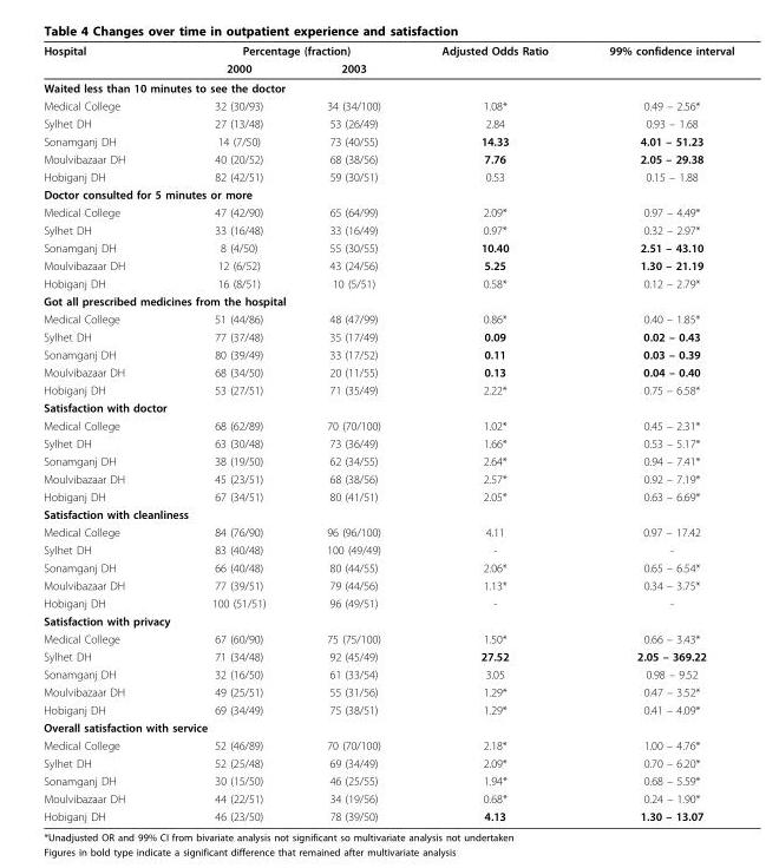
<table><thead><tr><td rowspan="2">Hospital</td><td colspan="2">Percentage (fraction)</td><td rowspan="2">Adjusted Odds Ratio</td><td rowspan="2">99% confidence interval</td></tr><tr><td>2000</td><td>2003</td></tr></thead><tbody><tr><td colspan="5">Waited less than 10 minutes to see the doctor</td></tr><tr><td>Medical College</td><td>32 (30/93)</td><td>34 (34/100)</td><td>1.08*</td><td>0.49 – 2.56*</td></tr><tr><td>Sylhet DH</td><td>27 (13/48)</td><td>53 (26/49)</td><td>2.84</td><td>0.93 – 1.68</td></tr><tr><td>Sonamganj DH</td><td>14 (7/50)</td><td>73 (40/55)</td><td>14.33</td><td>4.01 – 51.23</td></tr><tr><td>Moulvibazaar DH</td><td>40 (20/52)</td><td>68 (38/56)</td><td>7.76</td><td>2.05 – 29.38</td></tr><tr><td>Hobiganj DH</td><td>82 (42/51)</td><td>59 (30/51)</td><td>0.53</td><td>0.15 – 1.88</td></tr><tr><td colspan="5">Doctor consulted for 5 minutes or more</td></tr><tr><td>Medical College</td><td>47 (42/90)</td><td>65 (64/99)</td><td>2.09*</td><td>0.97 – 4.49*</td></tr><tr><td>Sylhet DH</td><td>33 (16/48)</td><td>33 (16/49)</td><td>0.97*</td><td>0.32 – 2.97*</td></tr><tr><td>Sonamganj DH</td><td>8 (4/50)</td><td>55 (30/55)</td><td>10.40</td><td>2.51 – 43.10</td></tr><tr><td>Moulvibazaar DH</td><td>12 (6/52)</td><td>43 (24/56)</td><td>5.25</td><td>1.30 – 21.19</td></tr><tr><td>Hobiganj DH</td><td>16 (8/51)</td><td>10 (5/51)</td><td>0.58*</td><td>0.12 – 2.79*</td></tr><tr><td colspan="5">Got all prescribed medicines from the hospital</td></tr><tr><td>Medical College</td><td>51 (44/86)</td><td>48 (47/99)</td><td>0.86*</td><td>0.40 – 1.85*</td></tr><tr><td>Sylhet DH</td><td>77 (37/48)</td><td>35 (17/49)</td><td>0.09</td><td>0.02 – 0.43</td></tr><tr><td>Sonamganj DH</td><td>80 (39/49)</td><td>33 (17/52)</td><td>0.11</td><td>0.03 – 0.39</td></tr><tr><td>Moulvibazaar DH</td><td>68 (34/50)</td><td>20 (11/55)</td><td>0.13</td><td>0.04 – 0.40</td></tr><tr><td>Hobiganj DH</td><td>53 (27/51)</td><td>71 (35/49)</td><td>2.22*</td><td>0.75 – 6.58*</td></tr><tr><td colspan="5">Satisfaction with doctor</td></tr><tr><td>Medical College</td><td>68 (62/89)</td><td>70 (70/100)</td><td>1.02*</td><td>0.45 – 2.31*</td></tr><tr><td>Sylhet DH</td><td>63 (30/48)</td><td>73 (36/49)</td><td>1.66*</td><td>0.53 – 5.17*</td></tr><tr><td>Sonamganj DH</td><td>38 (19/50)</td><td>62 (34/55)</td><td>2.64*</td><td>0.94 – 7.41*</td></tr><tr><td>Moulvibazaar DH</td><td>45 (23/51)</td><td>68 (38/56)</td><td>2.57*</td><td>0.92 – 7.19*</td></tr><tr><td>Hobiganj DH</td><td>67 (34/51)</td><td>80 (41/51)</td><td>2.05*</td><td>0.63 – 6.69*</td></tr><tr><td colspan="5">Satisfaction with cleanliness</td></tr><tr><td>Medical College</td><td>84 (76/90)</td><td>96 (96/100)</td><td>4.11</td><td>0.97 – 17.42</td></tr><tr><td>Sylhet DH</td><td>83 (40/48)</td><td>100 (49/49)</td><td>-</td><td>-</td></tr><tr><td>Sonamganj DH</td><td>66 (40/48)</td><td>80 (44/55)</td><td>2.06*</td><td>0.65 – 6.54*</td></tr><tr><td>Moulvibazaar DH</td><td>77 (39/51)</td><td>79 (44/56)</td><td>1.13*</td><td>0.34 – 3.75*</td></tr><tr><td>Hobiganj DH</td><td>100 (51/51)</td><td>96 (49/51)</td><td>-</td><td>-</td></tr><tr><td colspan="5">Satisfaction with privacy</td></tr><tr><td>Medical College</td><td>67 (60/90)</td><td>75 (75/100)</td><td>1.50*</td><td>0.66 – 3.43*</td></tr><tr><td>Sylhet DH</td><td>71 (34/48)</td><td>92 (45/49)</td><td>27.52</td><td>2.05 – 369.22</td></tr><tr><td>Sonamganj DH</td><td>32 (16/50)</td><td>61 (33/54)</td><td>3.05</td><td>0.98 – 9.52</td></tr><tr><td>Moulvibazaar DH</td><td>49 (25/51)</td><td>55 (31/56)</td><td>1.29*</td><td>0.47 – 3.52*</td></tr><tr><td>Hobiganj DH</td><td>69 (34/49)</td><td>75 (38/51)</td><td>1.29*</td><td>0.41 – 4.09*</td></tr><tr><td colspan="5">Overall satisfaction with service</td></tr><tr><td>Medical College</td><td>52 (46/89)</td><td>70 (70/100)</td><td>2.18*</td><td>1.00 – 4.76*</td></tr><tr><td>Sylhet DH</td><td>52 (25/48)</td><td>69 (34/49)</td><td>2.09*</td><td>0.70 – 6.20*</td></tr><tr><td>Sonamganj DH</td><td>30 (15/50)</td><td>46 (25/55)</td><td>1.94*</td><td>0.68 – 5.59*</td></tr><tr><td>Moulvibazaar DH</td><td>44 (22/51)</td><td>34 (19/56)</td><td>0.68*</td><td>0.24 – 1.90*</td></tr><tr><td>Hobiganj DH</td><td>46 (23/50)</td><td>78 (39/50)</td><td>4.13</td><td>1.30 – 13.07</td></tr></tbody></table>